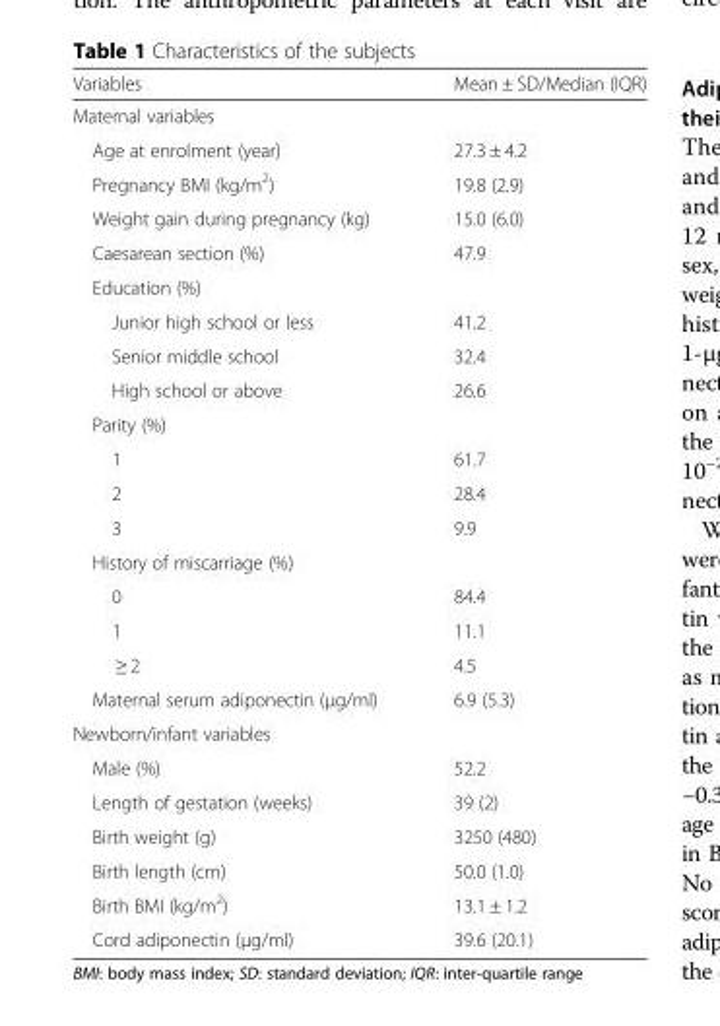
<table><thead><tr><td>Variables</td><td>Mean ± SD/Median (IQR)</td></tr></thead><tbody><tr><td colspan="2">Maternal variables</td></tr><tr><td>Age at enrolment (year)</td><td>27.3 ± 4.2</td></tr><tr><td>Pregnancy BMI (kg/m<sup>2</sup>)</td><td>19.8 (2.9)</td></tr><tr><td>Weight gain during pregnancy (kg)</td><td>15.0 (6.0)</td></tr><tr><td>Caesarean section (%)</td><td>47.9</td></tr><tr><td colspan="2">Education (%)</td></tr><tr><td>Junior high school or less</td><td>41.2</td></tr><tr><td>Senior middle school</td><td>32.4</td></tr><tr><td>High school or above</td><td>26.6</td></tr><tr><td colspan="2">Parity (%)</td></tr><tr><td>1</td><td>61.7</td></tr><tr><td>2</td><td>28.4</td></tr><tr><td>3</td><td>9.9</td></tr><tr><td colspan="2">History of miscarriage (%)</td></tr><tr><td>0</td><td>84.4</td></tr><tr><td>1</td><td>11.1</td></tr><tr><td>≥ 2</td><td>4.5</td></tr><tr><td>Maternal serum adiponectin (μg/ml)</td><td>6.9 (5.3)</td></tr><tr><td colspan="2">Newborn/infant variables</td></tr><tr><td>Male (%)</td><td>52.2</td></tr><tr><td>Length of gestation (weeks)</td><td>39 (2)</td></tr><tr><td>Birth weight (g)</td><td>3250 (480)</td></tr><tr><td>Birth length (cm)</td><td>50.0 (1.0)</td></tr><tr><td>Birth BMI (kg/m<sup>2</sup>)</td><td>13.1 ± 1.2</td></tr><tr><td>Cord adiponectin (μg/ml)</td><td>39.6 (20.1)</td></tr></tbody></table>